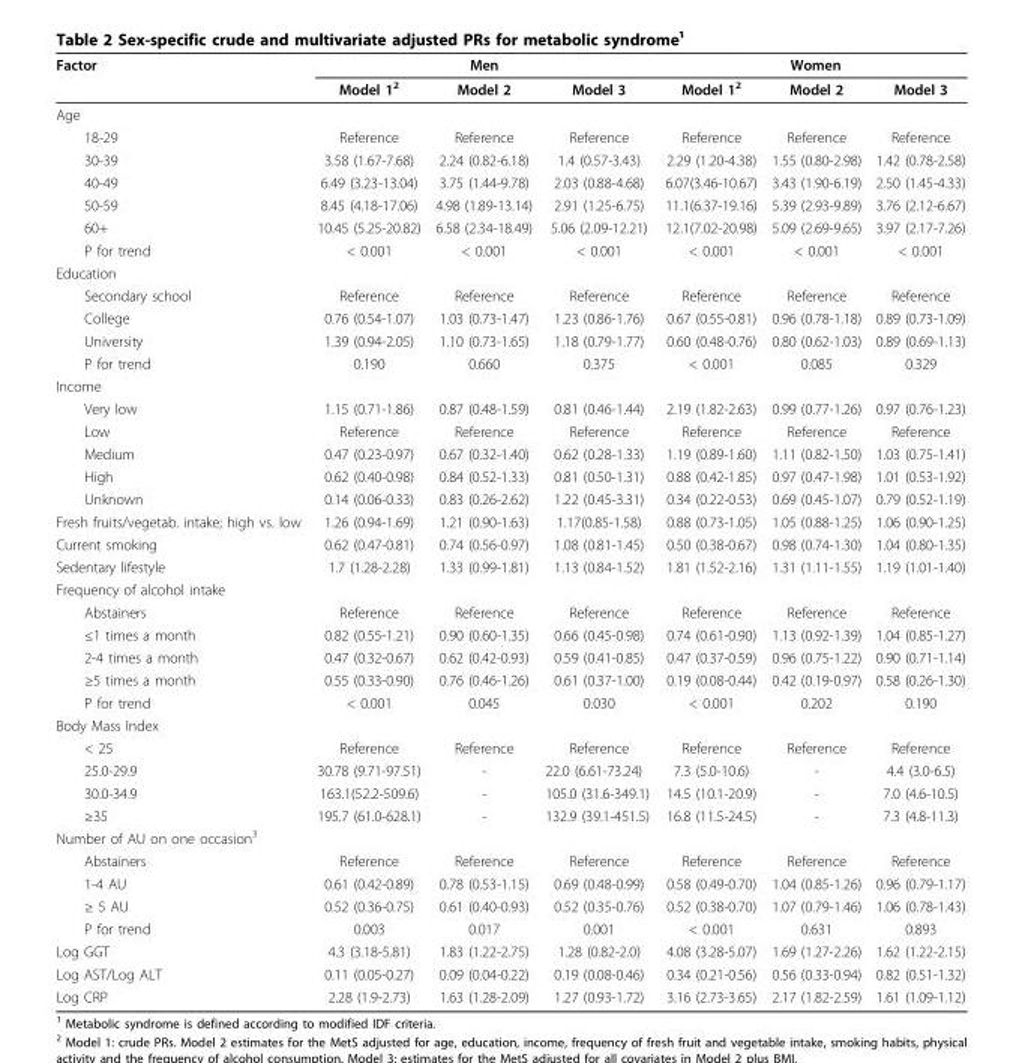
<table><thead><tr><td rowspan="2">Factor</td><td colspan="3">Men</td><td colspan="3">Women</td></tr><tr><td>Model 1<sup>2</sup></td><td>Model 2</td><td>Model 3</td><td>Model 1<sup>2</sup></td><td>Model 2</td><td>Model 3</td></tr></thead><tbody><tr><td colspan="7">Age</td></tr><tr><td>18-29</td><td>Reference</td><td>Reference</td><td>Reference</td><td>Reference</td><td>Reference</td><td>Reference</td></tr><tr><td>30-39</td><td>3.58 (1.67-7.68)</td><td>2.24 (0.82-6.18)</td><td>1.4 (0.57-3.43)</td><td>2.29 (1.20-4.38)</td><td>1.55 (0.80-2.98)</td><td>1.42 (0.78-2.58)</td></tr><tr><td>40-49</td><td>6.49 (3.23-13.04)</td><td>3.75 (1.44-9.78)</td><td>2.03 (0.88-4.68)</td><td>6.07(3.46-10.67)</td><td>3.43 (1.90-6.19)</td><td>2.50 (1.45-4.33)</td></tr><tr><td>50-59</td><td>8.45 (4.18-17.06)</td><td>4.98 (1.89-13.14)</td><td>2.91 (1.25-6.75)</td><td>11.1(6.37-19.16)</td><td>5.39 (2.93-9.89)</td><td>3.76 (2.12-6.67)</td></tr><tr><td>60+</td><td>10.45 (5.25-20.82)</td><td>6.58 (2.34-18.49)</td><td>5.06 (2.09-12.21)</td><td>12.1(7.02-20.98)</td><td>5.09 (2.69-9.65)</td><td>3.97 (2.17-7.26)</td></tr><tr><td>P for trend</td><td>&lt; 0.001</td><td>&lt; 0.001</td><td>&lt; 0.001</td><td>&lt; 0.001</td><td>&lt; 0.001</td><td>&lt; 0.001</td></tr><tr><td colspan="7">Education</td></tr><tr><td>Secondary school</td><td>Reference</td><td>Reference</td><td>Reference</td><td>Reference</td><td>Reference</td><td>Reference</td></tr><tr><td>College</td><td>0.76 (0.54-1.07)</td><td>1.03 (0.73-1.47)</td><td>1.23 (0.86-1.76)</td><td>0.67 (0.55-0.81)</td><td>0.96 (0.78-1.18)</td><td>0.89 (0.73-1.09)</td></tr><tr><td>University</td><td>1.39 (0.94-2.05)</td><td>1.10 (0.73-1.65)</td><td>1.18 (0.79-1.77)</td><td>0.60 (0.48-0.76)</td><td>0.80 (0.62-1.03)</td><td>0.89 (0.69-1.13)</td></tr><tr><td>P for trend</td><td>0.190</td><td>0.660</td><td>0.375</td><td>&lt; 0.001</td><td>0.085</td><td>0.329</td></tr><tr><td colspan="7">Income</td></tr><tr><td>Very low</td><td>1.15 (0.71-1.86)</td><td>0.87 (0.48-1.59)</td><td>0.81 (0.46-1.44)</td><td>2.19 (1.82-2.63)</td><td>0.99 (0.77-1.26)</td><td>0.97 (0.76-1.23)</td></tr><tr><td>Low</td><td>Reference</td><td>Reference</td><td>Reference</td><td>Reference</td><td>Reference</td><td>Reference</td></tr><tr><td>Medium</td><td>0.47 (0.23-0.97)</td><td>0.67 (0.32-1.40)</td><td>0.62 (0.28-1.33)</td><td>1.19 (0.89-1.60)</td><td>1.11 (0.82-1.50)</td><td>1.03 (0.75-1.41)</td></tr><tr><td>High</td><td>0.62 (0.40-0.98)</td><td>0.84 (0.52-1.33)</td><td>0.81 (0.50-1.31)</td><td>0.88 (0.42-1.85)</td><td>0.97 (0.47-1.98)</td><td>1.01 (0.53-1.92)</td></tr><tr><td>Unknown</td><td>0.14 (0.06-0.33)</td><td>0.83 (0.26-2.62)</td><td>1.22 (0.45-3.31)</td><td>0.34 (0.22-0.53)</td><td>0.69 (0.45-1.07)</td><td>0.79 (0.52-1.19)</td></tr><tr><td>Fresh fruits/vegetab. intake; high vs. low</td><td>1.26 (0.94-1.69)</td><td>1.21 (0.90-1.63)</td><td>1.17(0.85-1.58)</td><td>0.88 (0.73-1.05)</td><td>1.05 (0.88-1.25)</td><td>1.06 (0.90-1.25)</td></tr><tr><td>Current smoking</td><td>0.62 (0.47-0.81)</td><td>0.74 (0.56-0.97)</td><td>1.08 (0.81-1.45)</td><td>0.50 (0.38-0.67)</td><td>0.98 (0.74-1.30)</td><td>1.04 (0.80-1.35)</td></tr><tr><td>Sedentary lifestyle</td><td>1.7 (1.28-2.28)</td><td>1.33 (0.99-1.81)</td><td>1.13 (0.84-1.52)</td><td>1.81 (1.52-2.16)</td><td>1.31 (1.11-1.55)</td><td>1.19 (1.01-1.40)</td></tr><tr><td colspan="7">Frequency of alcohol intake</td></tr><tr><td>Abstainers</td><td>Reference</td><td>Reference</td><td>Reference</td><td>Reference</td><td>Reference</td><td>Reference</td></tr><tr><td>≤1 times a month</td><td>0.82 (0.55-1.21)</td><td>0.90 (0.60-1.35)</td><td>0.66 (0.45-0.98)</td><td>0.74 (0.61-0.90)</td><td>1.13 (0.92-1.39)</td><td>1.04 (0.85-1.27)</td></tr><tr><td>2-4 times a month</td><td>0.47 (0.32-0.67)</td><td>0.62 (0.42-0.93)</td><td>0.59 (0.41-0.85)</td><td>0.47 (0.37-0.59)</td><td>0.96 (0.75-1.22)</td><td>0.90 (0.71-1.14)</td></tr><tr><td>≥5 times a month</td><td>0.55 (0.33-0.90)</td><td>0.76 (0.46-1.26)</td><td>0.61 (0.37-1.00)</td><td>0.19 (0.08-0.44)</td><td>0.42 (0.19-0.97)</td><td>0.58 (0.26-1.30)</td></tr><tr><td>P for trend</td><td>&lt; 0.001</td><td>0.045</td><td>0.030</td><td>&lt; 0.001</td><td>0.202</td><td>0.190</td></tr><tr><td colspan="7">Body Mass Index</td></tr><tr><td>&lt; 25</td><td>Reference</td><td>Reference</td><td>Reference</td><td>Reference</td><td>Reference</td><td>Reference</td></tr><tr><td>25.0-29.9</td><td>30.78 (9.71-97.51)</td><td>-</td><td>22.0 (6.61-73.24)</td><td>7.3 (5.0-10.6)</td><td>-</td><td>4.4 (3.0-6.5)</td></tr><tr><td>30.0-34.9</td><td>163.1(52.2-509.6)</td><td>-</td><td>105.0 (31.6-349.1)</td><td>14.5 (10.1-20.9)</td><td>-</td><td>7.0 (4.6-10.5)</td></tr><tr><td>≥35</td><td>195.7 (61.0-628.1)</td><td>-</td><td>132.9 (39.1-451.5)</td><td>16.8 (11.5-24.5)</td><td>-</td><td>7.3 (4.8-11.3)</td></tr><tr><td colspan="7">Number of AU on one occasion<sup>3</sup></td></tr><tr><td>Abstainers</td><td>Reference</td><td>Reference</td><td>Reference</td><td>Reference</td><td>Reference</td><td>Reference</td></tr><tr><td>1-4 AU</td><td>0.61 (0.42-0.89)</td><td>0.78 (0.53-1.15)</td><td>0.69 (0.48-0.99)</td><td>0.58 (0.49-0.70)</td><td>1.04 (0.85-1.26)</td><td>0.96 (0.79-1.17)</td></tr><tr><td>≥ 5 AU</td><td>0.52 (0.36-0.75)</td><td>0.61 (0.40-0.93)</td><td>0.52 (0.35-0.76)</td><td>0.52 (0.38-0.70)</td><td>1.07 (0.79-1.46)</td><td>1.06 (0.78-1.43)</td></tr><tr><td>P for trend</td><td>0.003</td><td>0.017</td><td>0.001</td><td>&lt; 0.001</td><td>0.631</td><td>0.893</td></tr><tr><td>Log GGT</td><td>4.3 (3.18-5.81)</td><td>1.83 (1.22-2.75)</td><td>1.28 (0.82-2.0)</td><td>4.08 (3.28-5.07)</td><td>1.69 (1.27-2.26)</td><td>1.62 (1.22-2.15)</td></tr><tr><td>Log AST/Log ALT</td><td>0.11 (0.05-0.27)</td><td>0.09 (0.04-0.22)</td><td>0.19 (0.08-0.46)</td><td>0.34 (0.21-0.56)</td><td>0.56 (0.33-0.94)</td><td>0.82 (0.51-1.32)</td></tr><tr><td>Log CRP</td><td>2.28 (1.9-2.73)</td><td>1.63 (1.28-2.09)</td><td>1.27 (0.93-1.72)</td><td>3.16 (2.73-3.65)</td><td>2.17 (1.82-2.59)</td><td>1.61 (1.09-1.12)</td></tr></tbody></table>